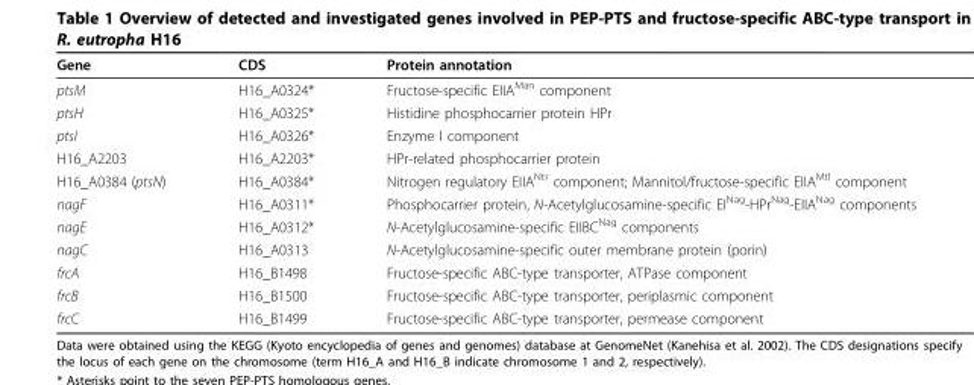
<table><thead><tr><td>Gene</td><td>CDS</td><td>Protein annotation</td></tr></thead><tbody><tr><td>ptsM</td><td>H16_A0324*</td><td>Fructose-specific EIIA<sup>Man</sup> component</td></tr><tr><td>ptsH</td><td>H16_A0325*</td><td>Histidine phosphocarrier protein HPr</td></tr><tr><td>ptsI</td><td>H16_A0326*</td><td>Enzyme I component</td></tr><tr><td>H16_A2203</td><td>H16_A2203*</td><td>HPr-related phosphocarrier protein</td></tr><tr><td>H16_A0384 (ptsN)</td><td>H16_A0384*</td><td>Nitrogen regulatory EIIA<sup>Ntr</sup> component; Mannitol/fructose-specific EIIA<sup>Mtl</sup> component</td></tr><tr><td>nagF</td><td>H16_A0311*</td><td>Phosphocarrier protein, N-Acetylglucosamine-specific EI<sup>Nag</sup>-HPr<sup>Nag</sup>-EIIA<sup>Nag</sup> components</td></tr><tr><td>nagE</td><td>H16_A0312*</td><td>N-Acetylglucosamine-specific EIIBC<sup>Nag</sup> components</td></tr><tr><td>nagC</td><td>H16_A0313</td><td>N-Acetylglucosamine-specific outer membrane protein (porin)</td></tr><tr><td>frcA</td><td>H16_B1498</td><td>Fructose-specific ABC-type transporter, ATPase component</td></tr><tr><td>frcB</td><td>H16_B1500</td><td>Fructose-specific ABC-type transporter, periplasmic component</td></tr><tr><td>frcC</td><td>H16_B1499</td><td>Fructose-specific ABC-type transporter, permease component</td></tr></tbody></table>